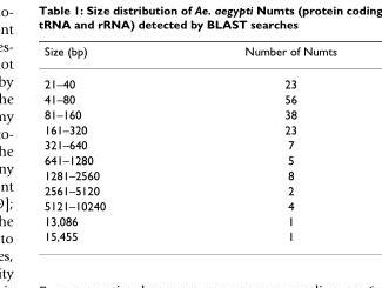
<table><thead><tr><td>Size (bp)</td><td>Number of Numts</td></tr></thead><tbody><tr><td>21–40</td><td>23</td></tr><tr><td>41–80</td><td>56</td></tr><tr><td>81–160</td><td>38</td></tr><tr><td>161–320</td><td>23</td></tr><tr><td>321–640</td><td>7</td></tr><tr><td>641–1280</td><td>5</td></tr><tr><td>1281–2560</td><td>8</td></tr><tr><td>2561–5120</td><td>2</td></tr><tr><td>5121–10240</td><td>4</td></tr><tr><td>13,086</td><td>1</td></tr><tr><td>15,455</td><td>1</td></tr></tbody></table>